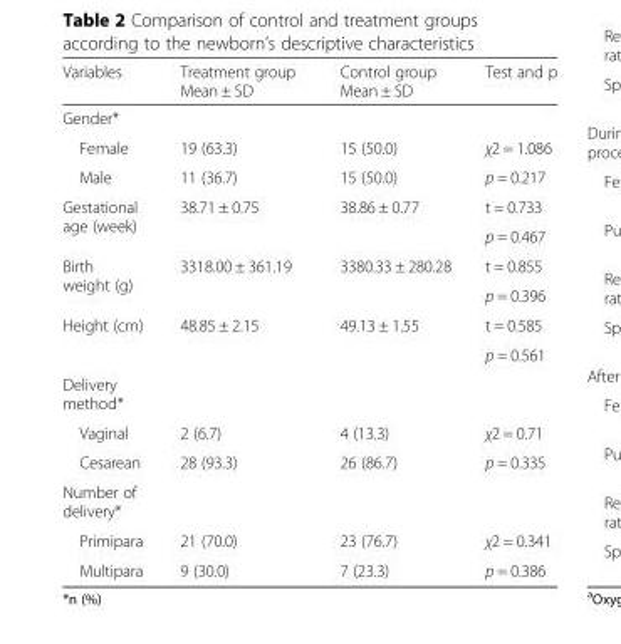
<table><thead><tr><td>Variables</td><td>Treatment group Mean ± SD</td><td>Control group Mean ± SD</td><td>Test and p</td></tr></thead><tbody><tr><td colspan="4">Gender*</td></tr><tr><td>Female</td><td>19 (63.3)</td><td>15 (50.0)</td><td>χ2 = 1.086</td></tr><tr><td>Male</td><td>11 (36.7)</td><td>15 (50.0)</td><td>p = 0.217</td></tr><tr><td rowspan="2">Gestational age (week)</td><td rowspan="2">38.71 ± 0.75</td><td rowspan="2">38.86 ± 0.77</td><td>t = 0.733</td></tr><tr><td>p = 0.467</td></tr><tr><td rowspan="2">Birth weight (g)</td><td rowspan="2">3318.00 ± 361.19</td><td rowspan="2">3380.33 ± 280.28</td><td>t = 0.855</td></tr><tr><td>p = 0.396</td></tr><tr><td rowspan="2">Height (cm)</td><td rowspan="2">48.85 ± 2.15</td><td rowspan="2">49.13 ± 1.55</td><td>t = 0.585</td></tr><tr><td>p = 0.561</td></tr><tr><td colspan="4">Delivery method*</td></tr><tr><td>Vaginal</td><td>2 (6.7)</td><td>4 (13.3)</td><td>χ2 = 0.71</td></tr><tr><td>Cesarean</td><td>28 (93.3)</td><td>26 (86.7)</td><td>p = 0.335</td></tr><tr><td colspan="4">Number of delivery*</td></tr><tr><td>Primipara</td><td>21 (70.0)</td><td>23 (76.7)</td><td>χ2 = 0.341</td></tr><tr><td>Multipara</td><td>9 (30.0)</td><td>7 (23.3)</td><td>p = 0.386</td></tr></tbody></table>